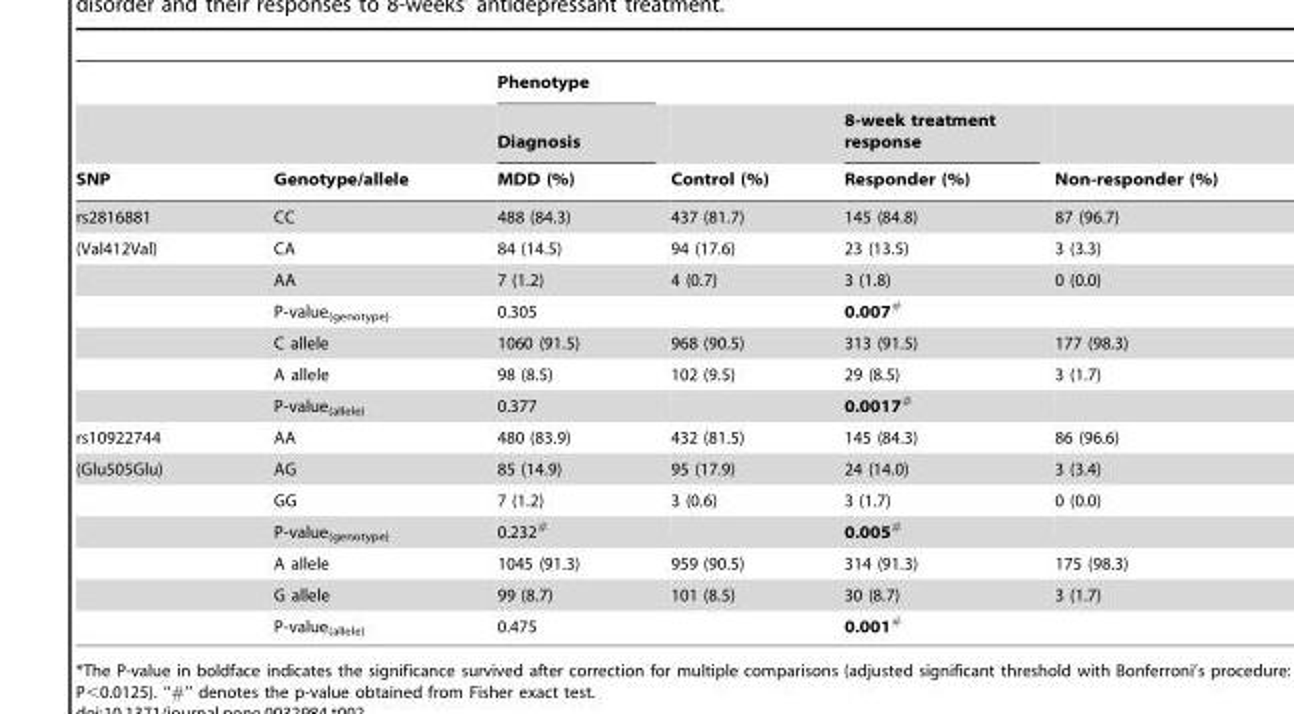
<table><thead><tr><td rowspan="3">SNP</td><td rowspan="3">Genotype/allele</td><td rowspan="3">Phenotype Diagnosis MDD (%)</td><td rowspan="3">Control (%)</td><td rowspan="3">8-week treatment response Responder (%)</td><td rowspan="3">Non-responder (%)</td></tr><tr></tr><tr></tr></thead><tbody><tr><td>rs2816881</td><td>CC</td><td>488 (84.3)</td><td>437 (81.7)</td><td>145 (84.8)</td><td>87 (96.7)</td></tr><tr><td rowspan="6">(Val412Val)</td><td>CA</td><td>84 (14.5)</td><td>94 (17.6)</td><td>23 (13.5)</td><td>3 (3.3)</td></tr><tr><td>AA</td><td>7 (1.2)</td><td>4 (0.7)</td><td>3 (1.8)</td><td>0 (0.0)</td></tr><tr><td>P-value<sub>(genotype)</sub></td><td>0.305</td><td></td><td>0.007<sup>#</sup></td><td></td></tr><tr><td>C allele</td><td>1060 (91.5)</td><td>968 (90.5)</td><td>313 (91.5)</td><td>177 (98.3)</td></tr><tr><td>A allele</td><td>98 (8.5)</td><td>102 (9.5)</td><td>29 (8.5)</td><td>3 (1.7)</td></tr><tr><td>P-value<sub>(allele)</sub></td><td>0.377</td><td></td><td>0.0017<sup>#</sup></td><td></td></tr><tr><td>rs10922744</td><td>AA</td><td>480 (83.9)</td><td>432 (81.5)</td><td>145 (84.3)</td><td>86 (96.6)</td></tr><tr><td rowspan="6">(Glu505Glu)</td><td>AG</td><td>85 (14.9)</td><td>95 (17.9)</td><td>24 (14.0)</td><td>3 (3.4)</td></tr><tr><td>GG</td><td>7 (1.2)</td><td>3 (0.6)</td><td>3 (1.7)</td><td>0 (0.0)</td></tr><tr><td>P-value<sub>(genotype)</sub></td><td>0.232<sup>#</sup></td><td></td><td>0.005<sup>#</sup></td><td></td></tr><tr><td>A allele</td><td>1045 (91.3)</td><td>959 (90.5)</td><td>314 (91.3)</td><td>175 (98.3)</td></tr><tr><td>G allele</td><td>99 (8.7)</td><td>101 (8.5)</td><td>30 (8.7)</td><td>3 (1.7)</td></tr><tr><td>P-value<sub>(allele)</sub></td><td>0.475</td><td></td><td>0.001<sup>#</sup></td><td></td></tr></tbody></table>